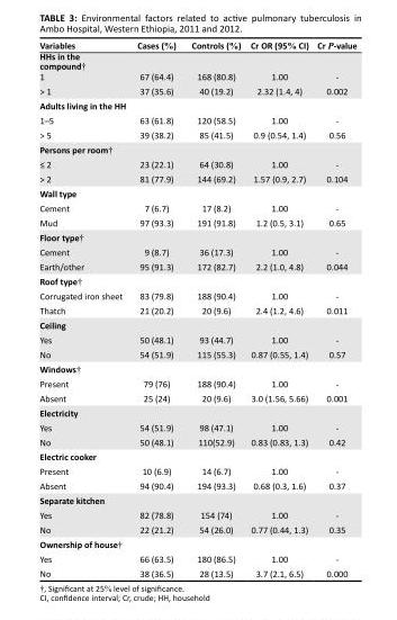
<table><thead><tr><td>Variables</td><td>Cases (%)</td><td>Controls (%)</td><td>Cr OR (95% CI)</td><td>Cr P-value</td></tr></thead><tbody><tr><td colspan="5">HHs in the compound†</td></tr><tr><td>1</td><td>67 (64.4)</td><td>168 (80.8)</td><td>1.00</td><td>-</td></tr><tr><td>&gt; 1</td><td>37 (35.6)</td><td>40 (19.2)</td><td>2.32 (1.4, 4)</td><td>0.002</td></tr><tr><td colspan="5">Adults living in the HH</td></tr><tr><td>1–5</td><td>63 (61.8)</td><td>120 (58.5)</td><td>1.00</td><td>-</td></tr><tr><td>&gt; 5</td><td>39 (38.2)</td><td>85 (41.5)</td><td>0.9 (0.54, 1.4)</td><td>0.56</td></tr><tr><td colspan="5">Persons per room†</td></tr><tr><td>≤ 2</td><td>23 (22.1)</td><td>64 (30.8)</td><td>1.00</td><td>-</td></tr><tr><td>&gt; 2</td><td>81 (77.9)</td><td>144 (69.2)</td><td>1.57 (0.9, 2.7)</td><td>0.104</td></tr><tr><td colspan="5">Wall type</td></tr><tr><td>Cement</td><td>7 (6.7)</td><td>17 (8.2)</td><td>1.00</td><td>-</td></tr><tr><td>Mud</td><td>97 (93.3)</td><td>191 (91.8)</td><td>1.2 (0.5, 3.1)</td><td>0.65</td></tr><tr><td colspan="5">Floor type†</td></tr><tr><td>Cement</td><td>9 (8.7)</td><td>36 (17.3)</td><td>1.00</td><td>-</td></tr><tr><td>Earth/other</td><td>95 (91.3)</td><td>172 (82.7)</td><td>2.2 (1.0, 4.8)</td><td>0.044</td></tr><tr><td colspan="5">Roof type†</td></tr><tr><td>Corrugated iron sheet</td><td>83 (79.8)</td><td>188 (90.4)</td><td>1.00</td><td>-</td></tr><tr><td>Thatch</td><td>21 (20.2)</td><td>20 (9.6)</td><td>2.4 (1.2, 4.6)</td><td>0.011</td></tr><tr><td colspan="5">Ceiling</td></tr><tr><td>Yes</td><td>50 (48.1)</td><td>93 (44.7)</td><td>1.00</td><td>-</td></tr><tr><td>No</td><td>54 (51.9)</td><td>115 (55.3)</td><td>0.87 (0.55, 1.4)</td><td>0.57</td></tr><tr><td colspan="5">Windows†</td></tr><tr><td>Present</td><td>79 (76)</td><td>188 (90.4)</td><td>1.00</td><td>-</td></tr><tr><td>Absent</td><td>25 (24)</td><td>20 (9.6)</td><td>3.0 (1.56, 5.66)</td><td>0.001</td></tr><tr><td colspan="5">Electricity</td></tr><tr><td>Yes</td><td>54 (51.9)</td><td>98 (47.1)</td><td>1.00</td><td>-</td></tr><tr><td>No</td><td>50 (48.1)</td><td>110(52.9)</td><td>0.83 (0.83, 1.3)</td><td>0.42</td></tr><tr><td colspan="5">Electric cooker</td></tr><tr><td>Present</td><td>10 (6.9)</td><td>14 (6.7)</td><td>1.00</td><td>-</td></tr><tr><td>Absent</td><td>94 (90.4)</td><td>194 (93.3)</td><td>0.68 (0.3, 1.6)</td><td>0.37</td></tr><tr><td colspan="5">Separate kitchen</td></tr><tr><td>Yes</td><td>82 (78.8)</td><td>154 (74)</td><td>1.00</td><td>-</td></tr><tr><td>No</td><td>22 (21.2)</td><td>54 (26.0)</td><td>0.77 (0.44, 1.3)</td><td>0.35</td></tr><tr><td colspan="5">Ownership of house†</td></tr><tr><td>Yes</td><td>66 (63.5)</td><td>180 (86.5)</td><td>1.00</td><td>-</td></tr><tr><td>No</td><td>38 (36.5)</td><td>28 (13.5)</td><td>3.7 (2.1, 6.5)</td><td>0.000</td></tr></tbody></table>